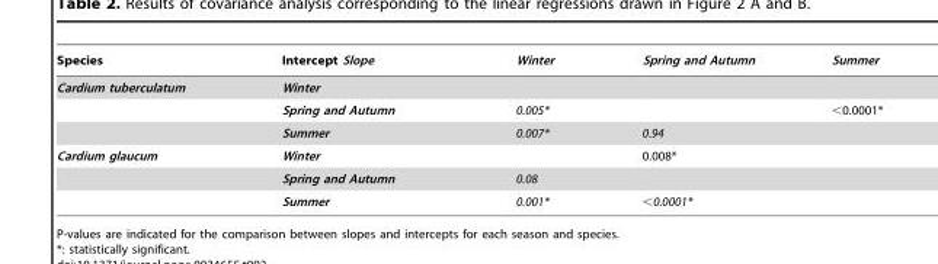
<table><thead><tr><td>Species</td><td>Intercept Slope</td><td>Winter</td><td>Spring and Autumn</td><td>Summer</td></tr></thead><tbody><tr><td rowspan="3">Cardium tuberculatum</td><td>Winter</td><td></td><td></td><td></td></tr><tr><td>Spring and Autumn</td><td>0.005*</td><td></td><td>&lt;0.0001*</td></tr><tr><td>Summer</td><td>0.007*</td><td>0.94</td><td></td></tr><tr><td rowspan="3">Cardium glaucum</td><td>Winter</td><td></td><td>0.008*</td><td></td></tr><tr><td>Spring and Autumn</td><td>0.08</td><td></td><td></td></tr><tr><td>Summer</td><td>0.001*</td><td>&lt;0.0001*</td><td></td></tr></tbody></table>